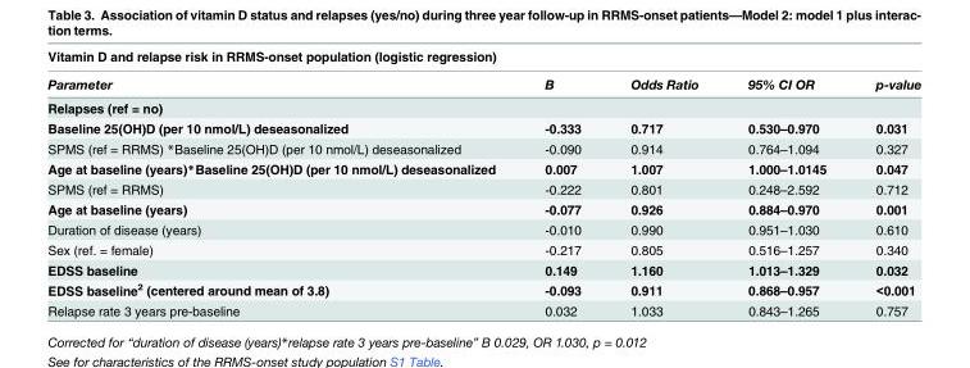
<table><thead><tr><td colspan="5">Vitamin D and relapse risk in RRMS-onset population (logistic regression)</td></tr><tr><td>Parameter</td><td>B</td><td>Odds Ratio</td><td>95% CI OR</td><td>p-value</td></tr></thead><tbody><tr><td colspan="5">Relapses (ref = no)</td></tr><tr><td>Baseline 25(OH)D (per 10 nmol/L) deseasonalized</td><td>-0.333</td><td>0.717</td><td>0.530–0.970</td><td>0.031</td></tr><tr><td>SPMS (ref = RRMS) *Baseline 25(OH)D (per 10 nmol/L) deseasonalized</td><td>-0.090</td><td>0.914</td><td>0.764–1.094</td><td>0.327</td></tr><tr><td>Age at baseline (years)*Baseline 25(OH)D (per 10 nmol/L) deseasonalized</td><td>0.007</td><td>1.007</td><td>1.000–1.0145</td><td>0.047</td></tr><tr><td>SPMS (ref = RRMS)</td><td>-0.222</td><td>0.801</td><td>0.248–2.592</td><td>0.712</td></tr><tr><td>Age at baseline (years)</td><td>-0.077</td><td>0.926</td><td>0.884–0.970</td><td>0.001</td></tr><tr><td>Duration of disease (years)</td><td>-0.010</td><td>0.990</td><td>0.951–1.030</td><td>0.610</td></tr><tr><td>Sex (ref. = female)</td><td>-0.217</td><td>0.805</td><td>0.516–1.257</td><td>0.340</td></tr><tr><td>EDSS baseline</td><td>0.149</td><td>1.160</td><td>1.013–1.329</td><td>0.032</td></tr><tr><td>EDSS baseline<sup>2</sup> (centered around mean of 3.8)</td><td>-0.093</td><td>0.911</td><td>0.868–0.957</td><td>&lt;0.001</td></tr><tr><td>Relapse rate 3 years pre-baseline</td><td>0.032</td><td>1.033</td><td>0.843–1.265</td><td>0.757</td></tr></tbody></table>